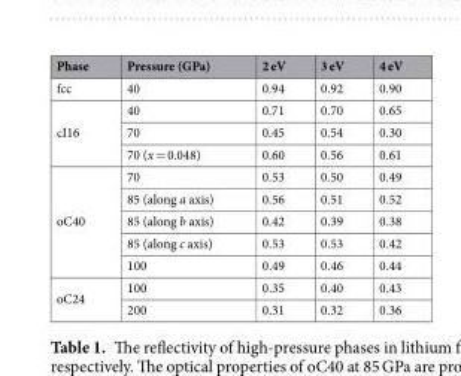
<table><thead><tr><td>Phase</td><td>Pressure (GPa)</td><td>2 eV</td><td>3 eV</td><td>4 eV</td></tr></thead><tbody><tr><td>fcc</td><td>40</td><td>0.94</td><td>0.92</td><td>0.90</td></tr><tr><td rowspan="3">cI16</td><td>40</td><td>0.71</td><td>0.70</td><td>0.65</td></tr><tr><td>70</td><td>0.45</td><td>0.54</td><td>0.30</td></tr><tr><td>70 (x = 0.048)</td><td>0.60</td><td>0.56</td><td>0.61</td></tr><tr><td rowspan="5">oC40</td><td>70</td><td>0.53</td><td>0.50</td><td>0.49</td></tr><tr><td>85 (along a axis)</td><td>0.56</td><td>0.51</td><td>0.52</td></tr><tr><td>85 (along b axis)</td><td>0.42</td><td>0.39</td><td>0.38</td></tr><tr><td>85 (along c axis)</td><td>0.53</td><td>0.53</td><td>0.42</td></tr><tr><td>100</td><td>0.49</td><td>0.46</td><td>0.44</td></tr><tr><td rowspan="2">oC24</td><td>100</td><td>0.35</td><td>0.40</td><td>0.43</td></tr><tr><td>200</td><td>0.31</td><td>0.32</td><td>0.36</td></tr></tbody></table>